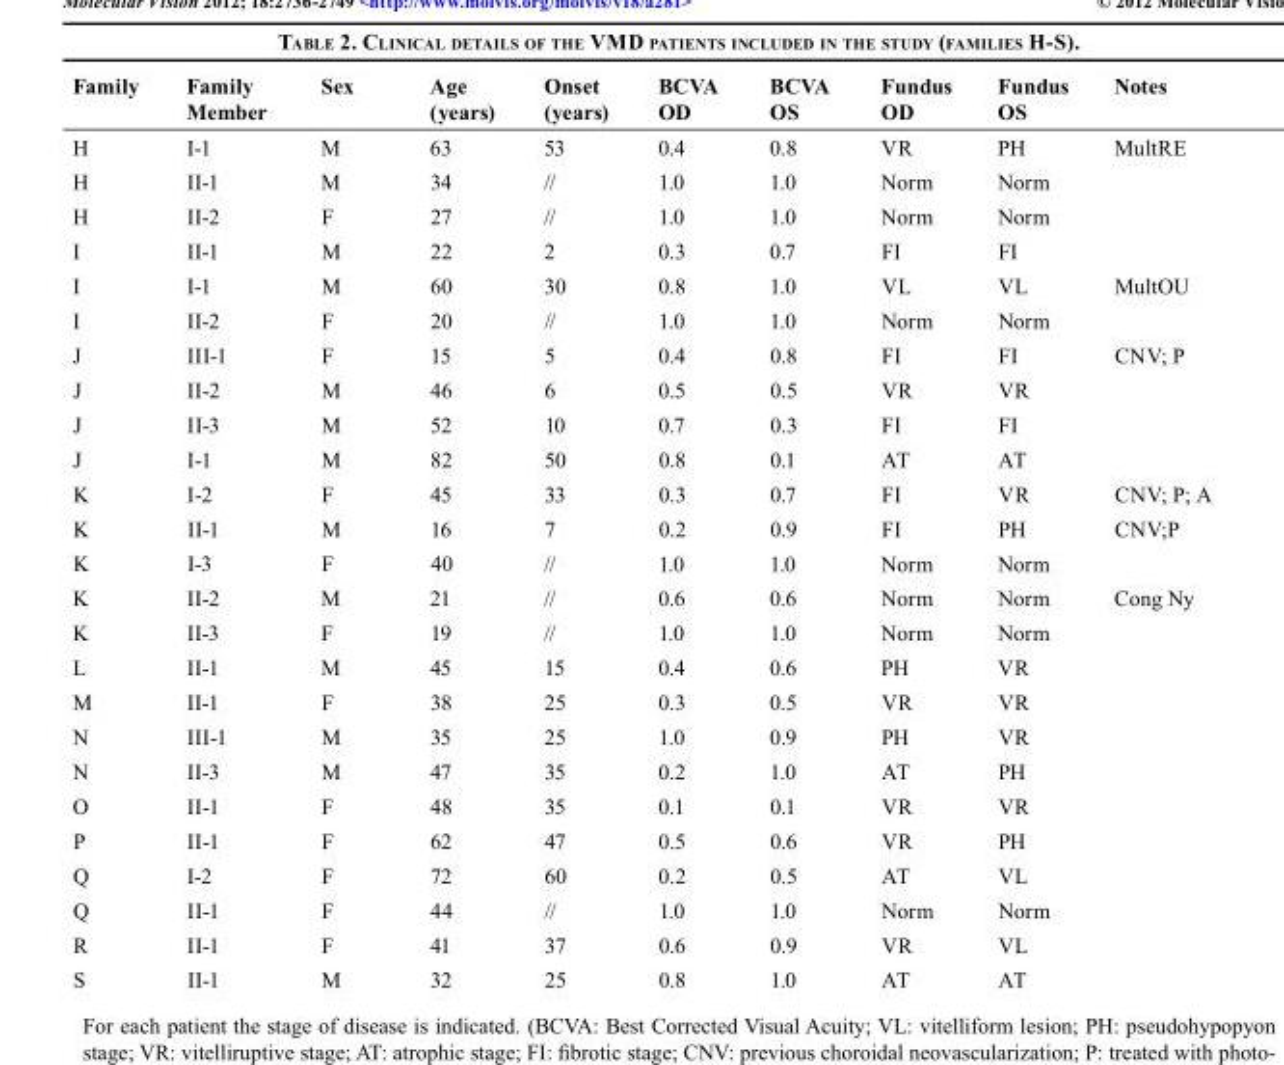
<table><thead><tr><td>Family</td><td>Family Member</td><td>Sex</td><td>Age (years)</td><td>Onset (years)</td><td>BCVA OD</td><td>BCVA OS</td><td>Fundus OD</td><td>Fundus OS</td><td>Notes</td></tr></thead><tbody><tr><td>H</td><td>I-1</td><td>M</td><td>63</td><td>53</td><td>0.4</td><td>0.8</td><td>VR</td><td>PH</td><td>MultRE</td></tr><tr><td>H</td><td>II-1</td><td>M</td><td>34</td><td>//</td><td>1.0</td><td>1.0</td><td>Norm</td><td>Norm</td><td></td></tr><tr><td>H</td><td>II-2</td><td>F</td><td>27</td><td>//</td><td>1.0</td><td>1.0</td><td>Norm</td><td>Norm</td><td></td></tr><tr><td>I</td><td>II-1</td><td>M</td><td>22</td><td>2</td><td>0.3</td><td>0.7</td><td>FI</td><td>FI</td><td></td></tr><tr><td>I</td><td>I-1</td><td>M</td><td>60</td><td>30</td><td>0.8</td><td>1.0</td><td>VL</td><td>VL</td><td>MultOU</td></tr><tr><td>I</td><td>II-2</td><td>F</td><td>20</td><td>//</td><td>1.0</td><td>1.0</td><td>Norm</td><td>Norm</td><td></td></tr><tr><td>J</td><td>III-1</td><td>F</td><td>15</td><td>5</td><td>0.4</td><td>0.8</td><td>FI</td><td>FI</td><td>CNV; P</td></tr><tr><td>J</td><td>II-2</td><td>M</td><td>46</td><td>6</td><td>0.5</td><td>0.5</td><td>VR</td><td>VR</td><td></td></tr><tr><td>J</td><td>II-3</td><td>M</td><td>52</td><td>10</td><td>0.7</td><td>0.3</td><td>FI</td><td>FI</td><td></td></tr><tr><td>J</td><td>I-1</td><td>M</td><td>82</td><td>50</td><td>0.8</td><td>0.1</td><td>AT</td><td>AT</td><td></td></tr><tr><td>K</td><td>I-2</td><td>F</td><td>45</td><td>33</td><td>0.3</td><td>0.7</td><td>FI</td><td>VR</td><td>CNV; P; A</td></tr><tr><td>K</td><td>II-1</td><td>M</td><td>16</td><td>7</td><td>0.2</td><td>0.9</td><td>FI</td><td>PH</td><td>CNV;P</td></tr><tr><td>K</td><td>I-3</td><td>F</td><td>40</td><td>//</td><td>1.0</td><td>1.0</td><td>Norm</td><td>Norm</td><td></td></tr><tr><td>K</td><td>II-2</td><td>M</td><td>21</td><td>//</td><td>0.6</td><td>0.6</td><td>Norm</td><td>Norm</td><td>Cong Ny</td></tr><tr><td>K</td><td>II-3</td><td>F</td><td>19</td><td>//</td><td>1.0</td><td>1.0</td><td>Norm</td><td>Norm</td><td></td></tr><tr><td>L</td><td>II-1</td><td>M</td><td>45</td><td>15</td><td>0.4</td><td>0.6</td><td>PH</td><td>VR</td><td></td></tr><tr><td>M</td><td>II-1</td><td>F</td><td>38</td><td>25</td><td>0.3</td><td>0.5</td><td>VR</td><td>VR</td><td></td></tr><tr><td>N</td><td>III-1</td><td>M</td><td>35</td><td>25</td><td>1.0</td><td>0.9</td><td>PH</td><td>VR</td><td></td></tr><tr><td>N</td><td>II-3</td><td>M</td><td>47</td><td>35</td><td>0.2</td><td>1.0</td><td>AT</td><td>PH</td><td></td></tr><tr><td>O</td><td>II-1</td><td>F</td><td>48</td><td>35</td><td>0.1</td><td>0.1</td><td>VR</td><td>VR</td><td></td></tr><tr><td>P</td><td>II-1</td><td>F</td><td>62</td><td>47</td><td>0.5</td><td>0.6</td><td>VR</td><td>PH</td><td></td></tr><tr><td>Q</td><td>I-2</td><td>F</td><td>72</td><td>60</td><td>0.2</td><td>0.5</td><td>AT</td><td>VL</td><td></td></tr><tr><td>Q</td><td>II-1</td><td>F</td><td>44</td><td>//</td><td>1.0</td><td>1.0</td><td>Norm</td><td>Norm</td><td></td></tr><tr><td>R</td><td>II-1</td><td>F</td><td>41</td><td>37</td><td>0.6</td><td>0.9</td><td>VR</td><td>VL</td><td></td></tr><tr><td>S</td><td>II-1</td><td>M</td><td>32</td><td>25</td><td>0.8</td><td>1.0</td><td>AT</td><td>AT</td><td></td></tr></tbody></table>